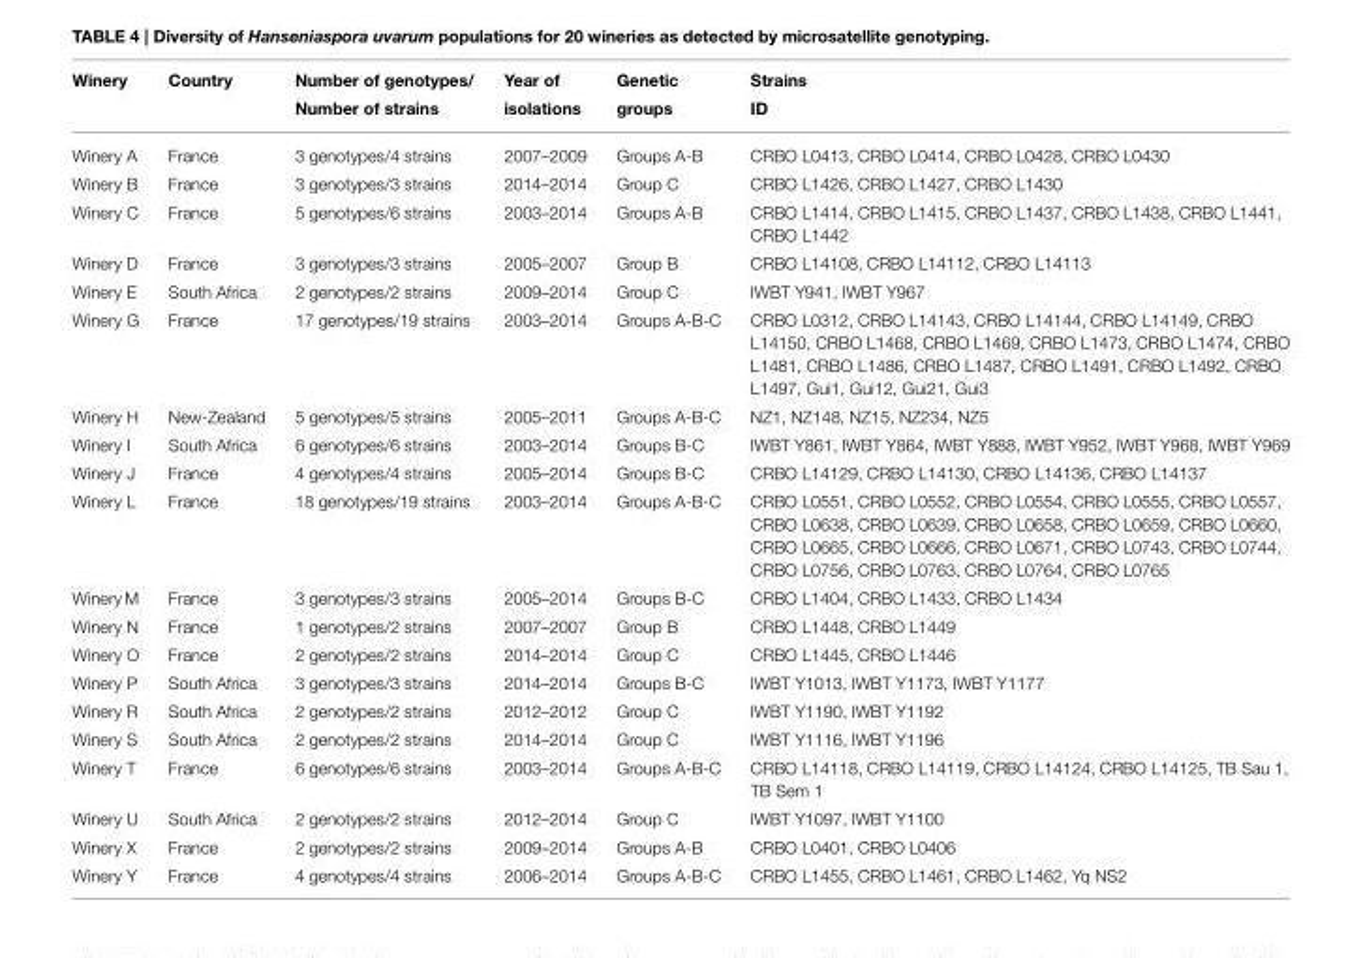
<table><thead><tr><td>Winery</td><td>Country</td><td>Number of genotypes/ Number of strains</td><td>Year of isolations</td><td>Genetic groups</td><td>Strains ID</td></tr></thead><tbody><tr><td>Winery A</td><td>France</td><td>3 genotypes/4 strains</td><td>2007–2009</td><td>Groups A-B</td><td>CRBO L0413, CRBO L0414, CRBO L0428, CRBO L0430</td></tr><tr><td>Winery B</td><td>France</td><td>3 genotypes/3 strains</td><td>2014–2014</td><td>Group C</td><td>CRBO L1426, CRBO L1427, CRBO L1430</td></tr><tr><td>Winery C</td><td>France</td><td>5 genotypes/6 strains</td><td>2003–2014</td><td>Groups A-B</td><td>CRBO L1414, CRBO L1415, CRBO L1437, CRBO L1438, CRBO L1441, CRBO L1442</td></tr><tr><td>Winery D</td><td>France</td><td>3 genotypes/3 strains</td><td>2005–2007</td><td>Group B</td><td>CRBO L14108, CRBO L14112, CRBO L14113</td></tr><tr><td>Winery E</td><td>South Africa</td><td>2 genotypes/2 strains</td><td>2009–2014</td><td>Group C</td><td>IWBT Y941, IWBT Y967</td></tr><tr><td>Winery G</td><td>France</td><td>17 genotypes/19 strains</td><td>2003–2014</td><td>Groups A-B-C</td><td>CRBO L0312, CRBO L14143, CRBO L14144, CRBO L14149, CRBO L14150, CRBO L1468, CRBO L1469, CRBO L1473, CRBO L1474, CRBO L1481, CRBO L1486, CRBO L1487, CRBO L1491, CRBO L1492, CRBO L1497, Gui1, Gui12, Gui21, Gui3</td></tr><tr><td>Winery H</td><td>New-Zealand</td><td>5 genotypes/5 strains</td><td>2005–2011</td><td>Groups A-B-C</td><td>NZ1, NZ148, NZ15, NZ234, NZ5</td></tr><tr><td>Winery I</td><td>South Africa</td><td>6 genotypes/6 strains</td><td>2003–2014</td><td>Groups B-C</td><td>IWBT Y861, IWBT Y864, IWBT Y888, IWBT Y952, IWBT Y968, IWBT Y969</td></tr><tr><td>Winery J</td><td>France</td><td>4 genotypes/4 strains</td><td>2005–2014</td><td>Groups B-C</td><td>CRBO L14129, CRBO L14130, CRBO L14136, CRBO L14137</td></tr><tr><td>Winery L</td><td>France</td><td>18 genotypes/19 strains</td><td>2003–2014</td><td>Groups A-B-C</td><td>CRBO L0551, CRBO L0552, CRBO L0554, CRBO L0555, CRBO L0557, CRBO L0638, CRBO L0639, CRBO L0658, CRBO L0659, CRBO L0660, CRBO L0665, CRBO L0666, CRBO L0671, CRBO L0743, CRBO L0744, CRBO L0756, CRBO L0763, CRBO L0764, CRBO L0765</td></tr><tr><td>Winery M</td><td>France</td><td>3 genotypes/3 strains</td><td>2005–2014</td><td>Groups B-C</td><td>CRBO L1404, CRBO L1433, CRBO L1434</td></tr><tr><td>Winery N</td><td>France</td><td>1 genotypes/2 strains</td><td>2007–2007</td><td>Group B</td><td>CRBO L1448, CRBO L1449</td></tr><tr><td>Winery O</td><td>France</td><td>2 genotypes/2 strains</td><td>2014–2014</td><td>Group C</td><td>CRBO L1445, CRBO L1446</td></tr><tr><td>Winery P</td><td>South Africa</td><td>3 genotypes/3 strains</td><td>2014–2014</td><td>Groups B-C</td><td>IWBT Y1013, IWBT Y1173, IWBT Y1177</td></tr><tr><td>Winery R</td><td>South Africa</td><td>2 genotypes/2 strains</td><td>2012–2012</td><td>Group C</td><td>IWBT Y1190, IWBT Y1192</td></tr><tr><td>Winery S</td><td>South Africa</td><td>2 genotypes/2 strains</td><td>2014–2014</td><td>Group C</td><td>IWBT Y1116, IWBT Y1196</td></tr><tr><td>Winery T</td><td>France</td><td>6 genotypes/6 strains</td><td>2003–2014</td><td>Groups A-B-C</td><td>CRBO L14118, CRBO L14119, CRBO L14124, CRBO L14125, TB Sau 1, TB Sem 1</td></tr><tr><td>Winery U</td><td>South Africa</td><td>2 genotypes/2 strains</td><td>2012–2014</td><td>Group C</td><td>IWBT Y1097, IWBT Y1100</td></tr><tr><td>Winery X</td><td>France</td><td>2 genotypes/2 strains</td><td>2009–2014</td><td>Groups A-B</td><td>CRBO L0401, CRBO L0406</td></tr><tr><td>Winery Y</td><td>France</td><td>4 genotypes/4 strains</td><td>2006–2014</td><td>Groups A-B-C</td><td>CRBO L1455, CRBO L1461, CRBO L1462, Yq NS2</td></tr></tbody></table>